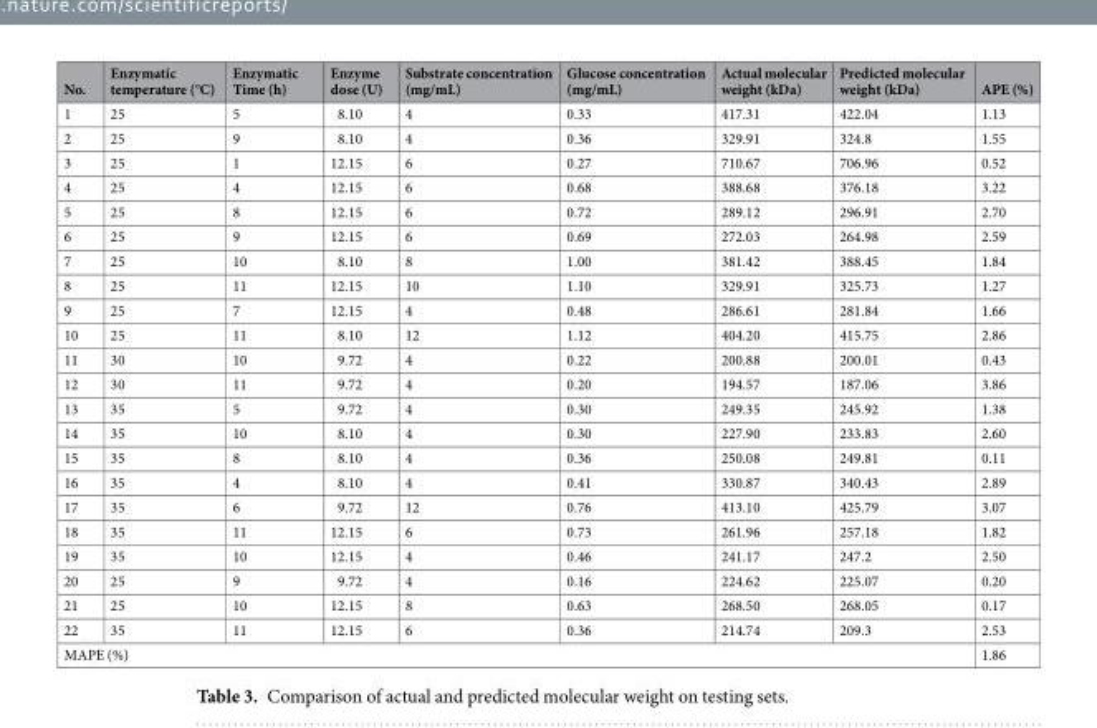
<table><thead><tr><td>No.</td><td>Enzymatic temperature (°C)</td><td>Enzymatic Time (h)</td><td>Enzyme dose (U)</td><td>Substrate concentration (mg/mL)</td><td>Glucose concentration (mg/mL)</td><td>Actual molecular weight (kDa)</td><td>Predicted molecular weight (kDa)</td><td>APE (%)</td></tr></thead><tbody><tr><td>1</td><td>25</td><td>5</td><td>8.10</td><td>4</td><td>0.33</td><td>417.31</td><td>422.04</td><td>1.13</td></tr><tr><td>2</td><td>25</td><td>9</td><td>8.10</td><td>4</td><td>0.36</td><td>329.91</td><td>324.8</td><td>1.55</td></tr><tr><td>3</td><td>25</td><td>1</td><td>12.15</td><td>6</td><td>0.27</td><td>710.67</td><td>706.96</td><td>0.52</td></tr><tr><td>4</td><td>25</td><td>4</td><td>12.15</td><td>6</td><td>0.68</td><td>388.68</td><td>376.18</td><td>3.22</td></tr><tr><td>5</td><td>25</td><td>8</td><td>12.15</td><td>6</td><td>0.72</td><td>289.12</td><td>296.91</td><td>2.70</td></tr><tr><td>6</td><td>25</td><td>9</td><td>12.15</td><td>6</td><td>0.69</td><td>272.03</td><td>264.98</td><td>2.59</td></tr><tr><td>7</td><td>25</td><td>10</td><td>8.10</td><td>8</td><td>1.00</td><td>381.42</td><td>388.45</td><td>1.84</td></tr><tr><td>8</td><td>25</td><td>11</td><td>12.15</td><td>10</td><td>1.10</td><td>329.91</td><td>325.73</td><td>1.27</td></tr><tr><td>9</td><td>25</td><td>7</td><td>12.15</td><td>4</td><td>0.48</td><td>286.61</td><td>281.84</td><td>1.66</td></tr><tr><td>10</td><td>25</td><td>11</td><td>8.10</td><td>12</td><td>1.12</td><td>404.20</td><td>415.75</td><td>2.86</td></tr><tr><td>11</td><td>30</td><td>10</td><td>9.72</td><td>4</td><td>0.22</td><td>200.88</td><td>200.01</td><td>0.43</td></tr><tr><td>12</td><td>30</td><td>11</td><td>9.72</td><td>4</td><td>0.20</td><td>194.57</td><td>187.06</td><td>3.86</td></tr><tr><td>13</td><td>35</td><td>5</td><td>9.72</td><td>4</td><td>0.30</td><td>249.35</td><td>245.92</td><td>1.38</td></tr><tr><td>14</td><td>35</td><td>10</td><td>8.10</td><td>4</td><td>0.30</td><td>227.90</td><td>233.83</td><td>2.60</td></tr><tr><td>15</td><td>35</td><td>8</td><td>8.10</td><td>4</td><td>0.36</td><td>250.08</td><td>249.81</td><td>0.11</td></tr><tr><td>16</td><td>35</td><td>4</td><td>8.10</td><td>4</td><td>0.41</td><td>330.87</td><td>340.43</td><td>2.89</td></tr><tr><td>17</td><td>35</td><td>6</td><td>9.72</td><td>12</td><td>0.76</td><td>413.10</td><td>425.79</td><td>3.07</td></tr><tr><td>18</td><td>35</td><td>11</td><td>12.15</td><td>6</td><td>0.73</td><td>261.96</td><td>257.18</td><td>1.82</td></tr><tr><td>19</td><td>35</td><td>10</td><td>12.15</td><td>4</td><td>0.46</td><td>241.17</td><td>247.2</td><td>2.50</td></tr><tr><td>20</td><td>25</td><td>9</td><td>9.72</td><td>4</td><td>0.16</td><td>224.62</td><td>225.07</td><td>0.20</td></tr><tr><td>21</td><td>25</td><td>10</td><td>12.15</td><td>8</td><td>0.63</td><td>268.50</td><td>268.05</td><td>0.17</td></tr><tr><td>22</td><td>35</td><td>11</td><td>12.15</td><td>6</td><td>0.36</td><td>214.74</td><td>209.3</td><td>2.53</td></tr><tr><td colspan="8">MAPE (%)</td><td>1.86</td></tr></tbody></table>